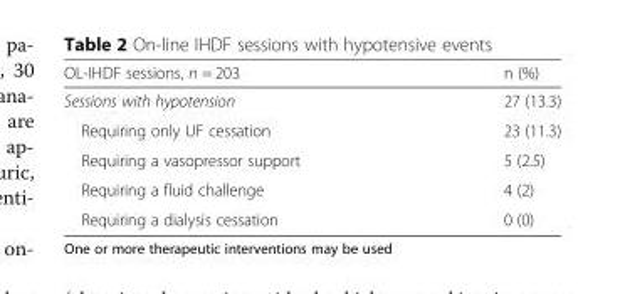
<table><thead><tr><td>OL-IHDF sessions, n = 203</td><td>n (%)</td></tr></thead><tbody><tr><td>Sessions with hypotension</td><td>27 (13.3)</td></tr><tr><td>Requiring only UF cessation</td><td>23 (11.3)</td></tr><tr><td>Requiring a vasopressor support</td><td>5 (2.5)</td></tr><tr><td>Requiring a fluid challenge</td><td>4 (2)</td></tr><tr><td>Requiring a dialysis cessation</td><td>0 (0)</td></tr></tbody></table>